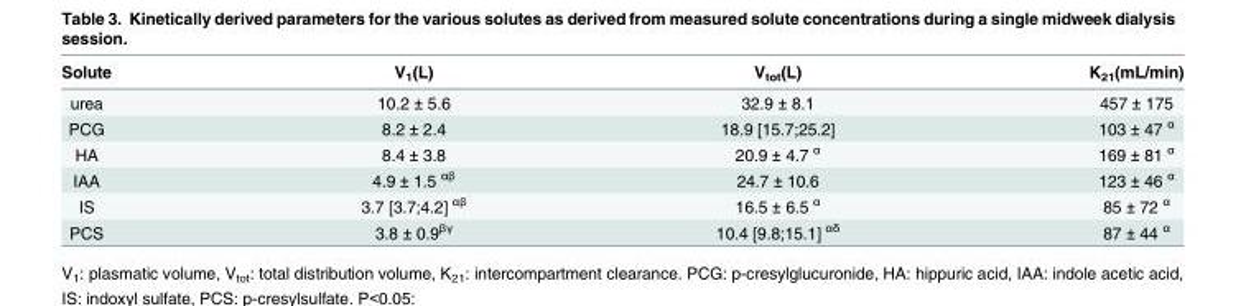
<table><thead><tr><td>Solute</td><td>V<sub>1</sub>(L)</td><td>V<sub>tot</sub>(L)</td><td>K<sub>21</sub>(mL/min)</td></tr></thead><tbody><tr><td>urea</td><td>10.2 ± 5.6</td><td>32.9 ± 8.1</td><td>457 ± 175</td></tr><tr><td>PCG</td><td>8.2 ± 2.4</td><td>18.9 [15.7;25.2]</td><td>103 ± 47 <sup>α</sup></td></tr><tr><td>HA</td><td>8.4 ± 3.8</td><td>20.9 ± 4.7 <sup>α</sup></td><td>169 ± 81 <sup>α</sup></td></tr><tr><td>IAA</td><td>4.9 ± 1.5 <sup>αβ</sup></td><td>24.7 ± 10.6</td><td>123 ± 46 <sup>α</sup></td></tr><tr><td>IS</td><td>3.7 [3.7;4.2] <sup>αβ</sup></td><td>16.5 ± 6.5 <sup>α</sup></td><td>85 ± 72 <sup>α</sup></td></tr><tr><td>PCS</td><td>3.8 ± 0.9<sup>βγ</sup></td><td>10.4 [9.8;15.1] <sup>αδ</sup></td><td>87 ± 44 <sup>α</sup></td></tr></tbody></table>